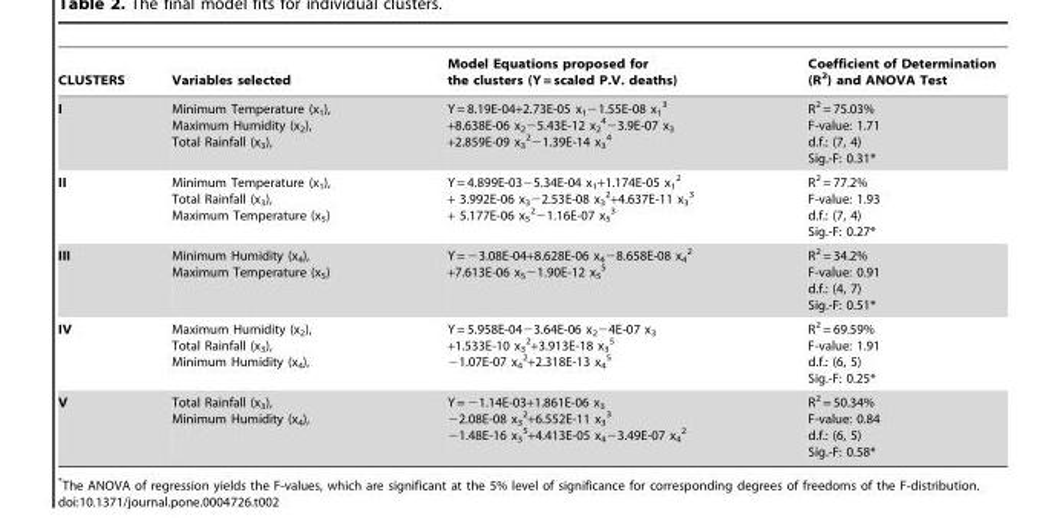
<table><thead><tr><td>CLUSTERS</td><td>Variables selected</td><td>Model Equations proposed for the clusters (Y = scaled P.V. deaths)</td><td>Coefficient of Determination (R<sup>2</sup>) and ANOVA Test</td></tr></thead><tbody><tr><td>I</td><td>Minimum Temperature (x<sub>1</sub>), Maximum Humidity (x<sub>2</sub>), Total Rainfall (x<sub>3</sub>),</td><td>Y = 8.19E-04+2.73E-05 x<sub>1</sub>−1.55E-08 x<sub>1</sub> <sup>3</sup> +8.638E-06 x<sub>2</sub>−5.43E-12 x<sub>2</sub> <sup>4</sup>−3.9E-07 x<sub>3</sub> +2.859E-09 x<sub>3</sub> <sup>2</sup>−1.39E-14 x<sub>3</sub> <sup>4</sup></td><td>R<sup>2</sup> = 75.03% F-value: 1.71 d.f.: (7, 4) Sig.-F: 0.31*</td></tr><tr><td>II</td><td>Minimum Temperature (x<sub>1</sub>), Total Rainfall (x<sub>3</sub>), Maximum Temperature (x<sub>5</sub>)</td><td>Y = 4.899E-03−5.34E-04 x<sub>1</sub>+1.174E-05 x<sub>1</sub> <sup>2</sup> + 3.992E-06 x<sub>3</sub>−2.53E-08 x<sub>3</sub> <sup>2</sup>+4.637E-11 x<sub>3</sub> <sup>3</sup> + 5.177E-06 x<sub>5</sub> <sup>2</sup>−1.16E-07 x<sub>5</sub> <sup>3</sup></td><td>R<sup>2</sup> = 77.2% F-value: 1.93 d.f.: (7, 4) Sig.-F: 0.27*</td></tr><tr><td>III</td><td>Minimum Humidity (x<sub>4</sub>), Maximum Temperature (x<sub>5</sub>)</td><td>Y = −3.08E-04+8.628E-06 x<sub>4</sub>−8.658E-08 x<sub>4</sub> <sup>2</sup> +7.613E-06 x<sub>5</sub>−1.90E-12 x<sub>5</sub> <sup>5</sup></td><td>R<sup>2</sup> = 34.2% F-value: 0.91 d.f.: (4, 7) Sig.-F: 0.51*</td></tr><tr><td>IV</td><td>Maximum Humidity (x<sub>2</sub>), Total Rainfall (x<sub>3</sub>), Minimum Humidity (x<sub>4</sub>),</td><td>Y = 5.958E-04−3.64E-06 x<sub>2</sub>−4E-07 x<sub>3</sub> +1.533E-10 x<sub>3</sub> <sup>2</sup>+3.913E-18 x<sub>3</sub> <sup>5</sup> −1.07E-07 x<sub>4</sub> <sup>2</sup>+2.318E-13 x<sub>4</sub> <sup>5</sup></td><td>R<sup>2</sup> = 69.59% F-value: 1.91 d.f.: (6, 5) Sig.-F: 0.25*</td></tr><tr><td>V</td><td>Total Rainfall (x<sub>3</sub>), Minimum Humidity (x<sub>4</sub>),</td><td>Y = −1.14E-03+1.861E-06 x<sub>3</sub> −2.08E-08 x<sub>3</sub> <sup>2</sup>+6.552E-11 x<sub>3</sub> <sup>3</sup> −1.48E-16 x<sub>3</sub> <sup>5</sup>+4.413E-05 x<sub>4</sub>−3.49E-07 x<sub>4</sub> <sup>2</sup></td><td>R<sup>2</sup> = 50.34% F-value: 0.84 d.f.: (6, 5) Sig.-F: 0.58*</td></tr></tbody></table>